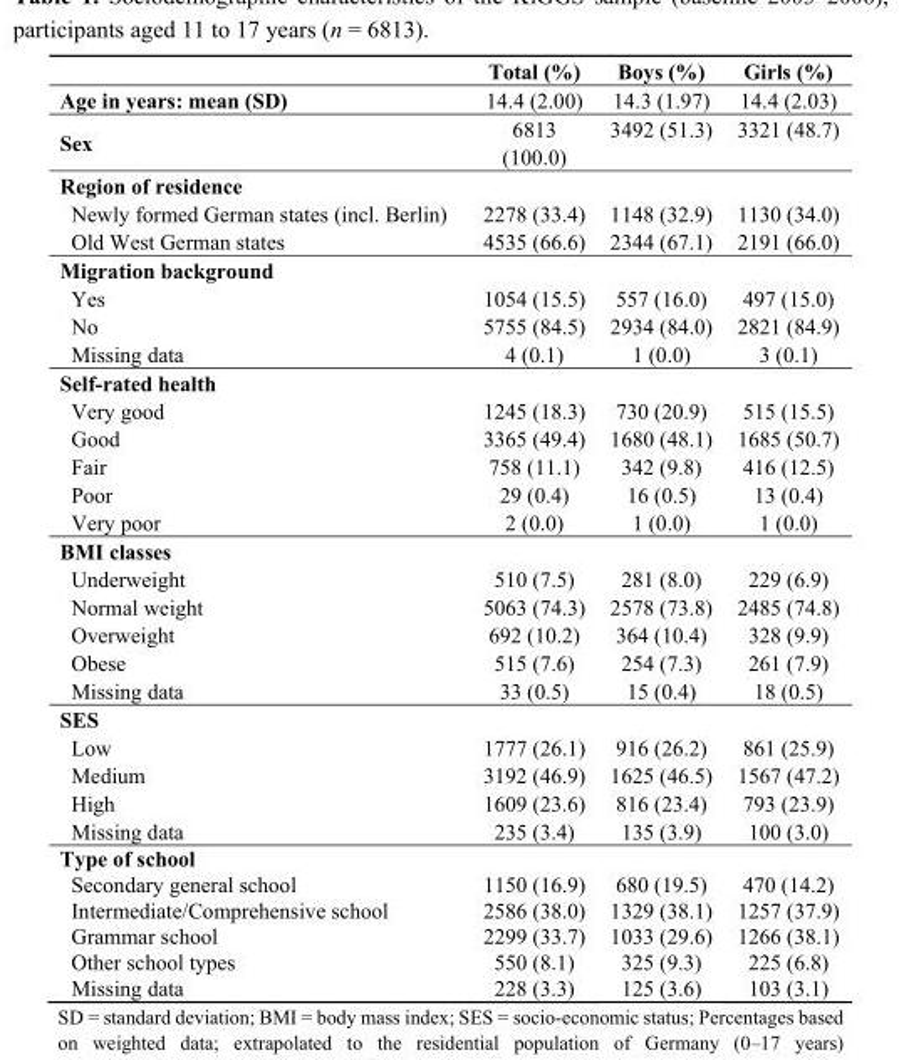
<table><thead><tr><td></td><td>Total (%)</td><td>Boys (%)</td><td>Girls (%)</td></tr></thead><tbody><tr><td>Age in years: mean (SD)</td><td>14.4 (2.00)</td><td>14.3 (1.97)</td><td>14.4 (2.03)</td></tr><tr><td>Sex</td><td>6813 (100.0)</td><td>3492 (51.3)</td><td>3321 (48.7)</td></tr><tr><td colspan="4">Region of residence</td></tr><tr><td>Newly formed German states (incl. Berlin)</td><td>2278 (33.4)</td><td>1148 (32.9)</td><td>1130 (34.0)</td></tr><tr><td>Old West German states</td><td>4535 (66.6)</td><td>2344 (67.1)</td><td>2191 (66.0)</td></tr><tr><td colspan="4">Migration background</td></tr><tr><td>Yes</td><td>1054 (15.5)</td><td>557 (16.0)</td><td>497 (15.0)</td></tr><tr><td>No</td><td>5755 (84.5)</td><td>2934 (84.0)</td><td>2821 (84.9)</td></tr><tr><td>Missing data</td><td>4 (0.1)</td><td>1 (0.0)</td><td>3 (0.1)</td></tr><tr><td colspan="4">Self-rated health</td></tr><tr><td>Very good</td><td>1245 (18.3)</td><td>730 (20.9)</td><td>515 (15.5)</td></tr><tr><td>Good</td><td>3365 (49.4)</td><td>1680 (48.1)</td><td>1685 (50.7)</td></tr><tr><td>Fair</td><td>758 (11.1)</td><td>342 (9.8)</td><td>416 (12.5)</td></tr><tr><td>Poor</td><td>29 (0.4)</td><td>16 (0.5)</td><td>13 (0.4)</td></tr><tr><td>Very poor</td><td>2 (0.0)</td><td>1 (0.0)</td><td>1 (0.0)</td></tr><tr><td colspan="4">BMI classes</td></tr><tr><td>Underweight</td><td>510 (7.5)</td><td>281 (8.0)</td><td>229 (6.9)</td></tr><tr><td>Normal weight</td><td>5063 (74.3)</td><td>2578 (73.8)</td><td>2485 (74.8)</td></tr><tr><td>Overweight</td><td>692 (10.2)</td><td>364 (10.4)</td><td>328 (9.9)</td></tr><tr><td>Obese</td><td>515 (7.6)</td><td>254 (7.3)</td><td>261 (7.9)</td></tr><tr><td>Missing data</td><td>33 (0.5)</td><td>15 (0.4)</td><td>18 (0.5)</td></tr><tr><td colspan="4">SES</td></tr><tr><td>Low</td><td>1777 (26.1)</td><td>916 (26.2)</td><td>861 (25.9)</td></tr><tr><td>Medium</td><td>3192 (46.9)</td><td>1625 (46.5)</td><td>1567 (47.2)</td></tr><tr><td>High</td><td>1609 (23.6)</td><td>816 (23.4)</td><td>793 (23.9)</td></tr><tr><td>Missing data</td><td>235 (3.4)</td><td>135 (3.9)</td><td>100 (3.0)</td></tr><tr><td colspan="4">Type of school</td></tr><tr><td>Secondary general school</td><td>1150 (16.9)</td><td>680 (19.5)</td><td>470 (14.2)</td></tr><tr><td>Intermediate/Comprehensive school</td><td>2586 (38.0)</td><td>1329 (38.1)</td><td>1257 (37.9)</td></tr><tr><td>Grammar school</td><td>2299 (33.7)</td><td>1033 (29.6)</td><td>1266 (38.1)</td></tr><tr><td>Other school types</td><td>550 (8.1)</td><td>325 (9.3)</td><td>225 (6.8)</td></tr><tr><td>Missing data</td><td>228 (3.3)</td><td>125 (3.6)</td><td>103 (3.1)</td></tr></tbody></table>